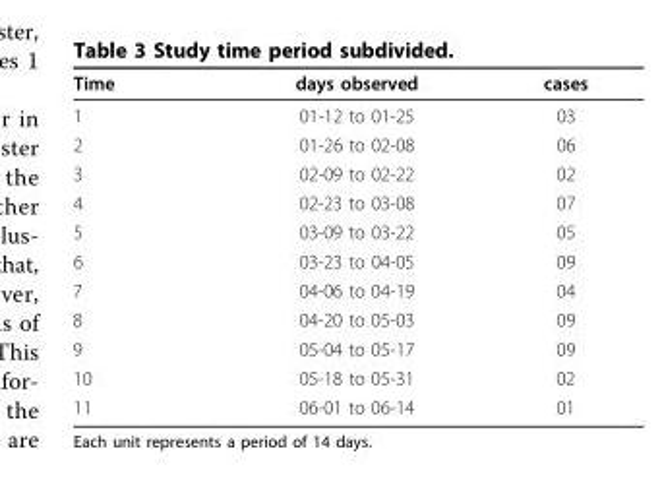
<table><thead><tr><td>Time</td><td>days observed</td><td>cases</td></tr></thead><tbody><tr><td>1</td><td>01-12 to 01-25</td><td>03</td></tr><tr><td>2</td><td>01-26 to 02-08</td><td>06</td></tr><tr><td>3</td><td>02-09 to 02-22</td><td>02</td></tr><tr><td>4</td><td>02-23 to 03-08</td><td>07</td></tr><tr><td>5</td><td>03-09 to 03-22</td><td>05</td></tr><tr><td>6</td><td>03-23 to 04-05</td><td>09</td></tr><tr><td>7</td><td>04-06 to 04-19</td><td>04</td></tr><tr><td>8</td><td>04-20 to 05-03</td><td>09</td></tr><tr><td>9</td><td>05-04 to 05-17</td><td>09</td></tr><tr><td>10</td><td>05-18 to 05-31</td><td>02</td></tr><tr><td>11</td><td>06-01 to 06-14</td><td>01</td></tr></tbody></table>